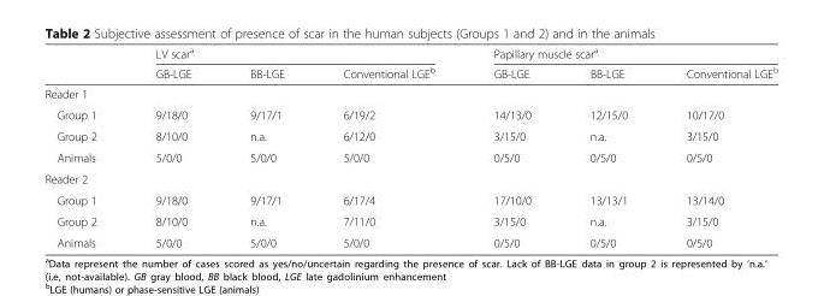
<table><thead><tr><td rowspan="2"></td><td colspan="3">LV scar<sup>a</sup></td><td colspan="3">Papillary muscle scar<sup>a</sup></td></tr><tr><td>GB-LGE</td><td>BB-LGE</td><td>Conventional LGE<sup>b</sup></td><td>GB-LGE</td><td>BB-LGE</td><td>Conventional LGE<sup>b</sup></td></tr></thead><tbody><tr><td colspan="7">Reader 1</td></tr><tr><td>Group 1</td><td>9/18/0</td><td>9/17/1</td><td>6/19/2</td><td>14/13/0</td><td>12/15/0</td><td>10/17/0</td></tr><tr><td>Group 2</td><td>8/10/0</td><td>n.a.</td><td>6/12/0</td><td>3/15/0</td><td>n.a.</td><td>3/15/0</td></tr><tr><td>Animals</td><td>5/0/0</td><td>5/0/0</td><td>5/0/0</td><td>0/5/0</td><td>0/5/0</td><td>0/5/0</td></tr><tr><td colspan="7">Reader 2</td></tr><tr><td>Group 1</td><td>9/18/0</td><td>9/17/1</td><td>6/17/4</td><td>17/10/0</td><td>13/13/1</td><td>13/14/0</td></tr><tr><td>Group 2</td><td>8/10/0</td><td>n.a.</td><td>7/11/0</td><td>3/15/0</td><td>n.a.</td><td>3/15/0</td></tr><tr><td>Animals</td><td>5/0/0</td><td>5/0/0</td><td>5/0/0</td><td>0/5/0</td><td>0/5/0</td><td>0/5/0</td></tr></tbody></table>